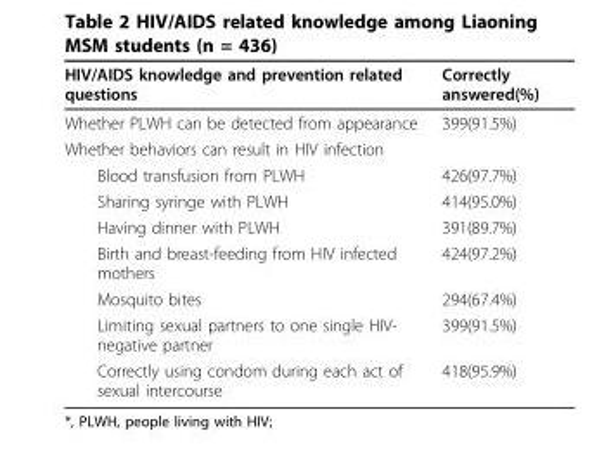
<table><thead><tr><td>HIV/AIDS knowledge and prevention related questions</td><td>Correctly answered(%)</td></tr></thead><tbody><tr><td>Whether PLWH can be detected from appearance</td><td>399(91.5%)</td></tr><tr><td colspan="2">Whether behaviors can result in HIV infection</td></tr><tr><td>Blood transfusion from PLWH</td><td>426(97.7%)</td></tr><tr><td>Sharing syringe with PLWH</td><td>414(95.0%)</td></tr><tr><td>Having dinner with PLWH</td><td>391(89.7%)</td></tr><tr><td>Birth and breast-feeding from HIV infected mothers</td><td>424(97.2%)</td></tr><tr><td>Mosquito bites</td><td>294(67.4%)</td></tr><tr><td>Limiting sexual partners to one single HIV- negative partner</td><td>399(91.5%)</td></tr><tr><td>Correctly using condom during each act of sexual intercourse</td><td>418(95.9%)</td></tr></tbody></table>